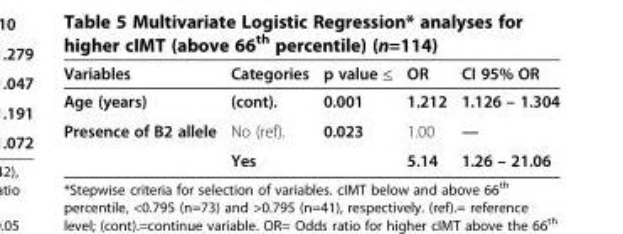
<table><thead><tr><td>Variables</td><td>Categories</td><td>p value ≤</td><td>OR</td><td>CI 95% OR</td></tr></thead><tbody><tr><td>Age (years)</td><td>(cont).</td><td>0.001</td><td>1.212</td><td>1.126 – 1.304</td></tr><tr><td rowspan="2">Presence of B2 allele</td><td>No (ref).</td><td>0.023</td><td>1.00</td><td>—</td></tr><tr><td>Yes</td><td></td><td>5.14</td><td>1.26 – 21.06</td></tr></tbody></table>